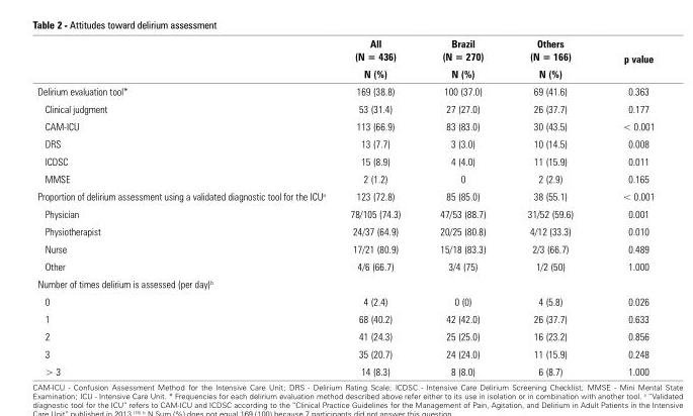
<table><thead><tr><td rowspan="3"></td><td rowspan="3">All (N = 436) N (%)</td><td rowspan="3">Brazil (N = 270) N (%)</td><td rowspan="3">Others (N = 166) N (%)</td><td rowspan="3">p value</td></tr><tr></tr><tr></tr></thead><tbody><tr><td>Delirium evaluation tool*</td><td>169 (38.8)</td><td>100 (37.0)</td><td>69 (41.6)</td><td>0.363</td></tr><tr><td>Clinical judgment</td><td>53 (31.4)</td><td>27 (27.0)</td><td>26 (37.7)</td><td>0.177</td></tr><tr><td>CAM-ICU</td><td>113 (66.9)</td><td>83 (83.0)</td><td>30 (43.5)</td><td>&lt; 0.001</td></tr><tr><td>DRS</td><td>13 (7.7)</td><td>3 (3.0)</td><td>10 (14.5)</td><td>0.008</td></tr><tr><td>ICDSC</td><td>15 (8.9)</td><td>4 (4.0)</td><td>11 (15.9)</td><td>0.011</td></tr><tr><td>MMSE</td><td>2 (1.2)</td><td>0</td><td>2 (2.9)</td><td>0.165</td></tr><tr><td>Proportion of delirium assessment using a validated diagnostic tool for the ICU<sup>a</sup></td><td>123 (72.8)</td><td>85 (85.0)</td><td>38 (55.1)</td><td>&lt; 0.001</td></tr><tr><td>Physician</td><td>78/105 (74.3)</td><td>47/53 (88.7)</td><td>31/52 (59.6)</td><td>0.001</td></tr><tr><td>Physiotherapist</td><td>24/37 (64.9)</td><td>20/25 (80.8)</td><td>4/12 (33.3)</td><td>0.010</td></tr><tr><td>Nurse</td><td>17/21 (80.9)</td><td>15/18 (83.3)</td><td>2/3 (66.7)</td><td>0.489</td></tr><tr><td>Other</td><td>4/6 (66.7)</td><td>3/4 (75)</td><td>1/2 (50)</td><td>1.000</td></tr><tr><td colspan="5">Number of times delirium is assessed (per day)<sup>b</sup></td></tr><tr><td>0</td><td>4 (2.4)</td><td>0 (0)</td><td>4 (5.8)</td><td>0.026</td></tr><tr><td>1</td><td>68 (40.2)</td><td>42 (42.0)</td><td>26 (37.7)</td><td>0.633</td></tr><tr><td>2</td><td>41 (24.3)</td><td>25 (25.0)</td><td>16 (23.2)</td><td>0.856</td></tr><tr><td>3</td><td>35 (20.7)</td><td>24 (24.0)</td><td>11 (15.9)</td><td>0.248</td></tr><tr><td>&gt; 3</td><td>14 (8.3)</td><td>8 (8.0)</td><td>6 (8.7)</td><td>1.000</td></tr></tbody></table>